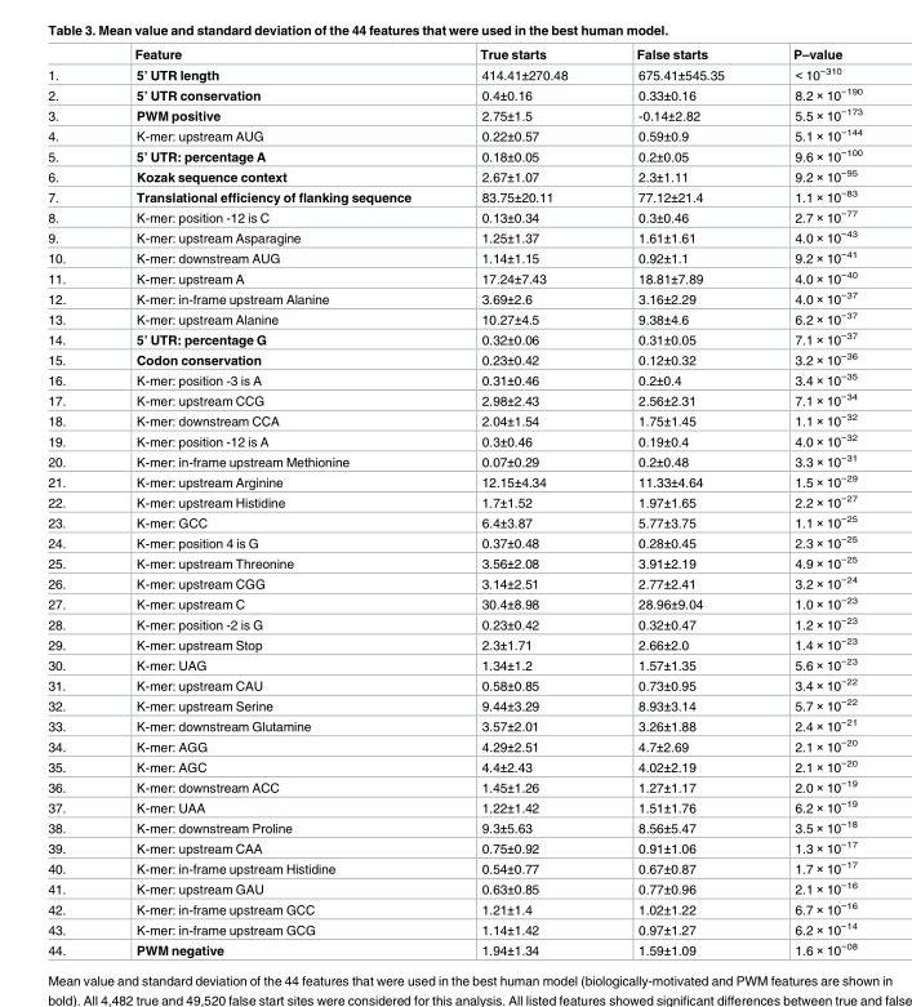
<table><thead><tr><td></td><td>Feature</td><td>True starts</td><td>False starts</td><td>P–value</td></tr></thead><tbody><tr><td>1.</td><td>5’ UTR length</td><td>414.41±270.48</td><td>675.41±545.35</td><td>&lt; 10<sup>−310</sup></td></tr><tr><td>2.</td><td>5’ UTR conservation</td><td>0.4±0.16</td><td>0.33±0.16</td><td>8.2 × 10<sup>−190</sup></td></tr><tr><td>3.</td><td>PWM positive</td><td>2.75±1.5</td><td>-0.14±2.82</td><td>5.5 × 10<sup>−173</sup></td></tr><tr><td>4.</td><td>K-mer: upstream AUG</td><td>0.22±0.57</td><td>0.59±0.9</td><td>5.1 × 10<sup>−144</sup></td></tr><tr><td>5.</td><td>5’ UTR: percentage A</td><td>0.18±0.05</td><td>0.2±0.05</td><td>9.6 × 10<sup>−100</sup></td></tr><tr><td>6.</td><td>Kozak sequence context</td><td>2.67±1.07</td><td>2.3±1.11</td><td>9.2 × 10<sup>−95</sup></td></tr><tr><td>7.</td><td>Translational efficiency of flanking sequence</td><td>83.75±20.11</td><td>77.12±21.4</td><td>1.1 × 10<sup>−83</sup></td></tr><tr><td>8.</td><td>K-mer: position -12 is C</td><td>0.13±0.34</td><td>0.3±0.46</td><td>2.7 × 10<sup>−77</sup></td></tr><tr><td>9.</td><td>K-mer: upstream Asparagine</td><td>1.25±1.37</td><td>1.61±1.61</td><td>4.0 × 10<sup>−43</sup></td></tr><tr><td>10.</td><td>K-mer: downstream AUG</td><td>1.14±1.15</td><td>0.92±1.1</td><td>9.2 × 10<sup>−41</sup></td></tr><tr><td>11.</td><td>K-mer: upstream A</td><td>17.24±7.43</td><td>18.81±7.89</td><td>4.0 × 10<sup>−40</sup></td></tr><tr><td>12.</td><td>K-mer: in-frame upstream Alanine</td><td>3.69±2.6</td><td>3.16±2.29</td><td>4.0 × 10<sup>−37</sup></td></tr><tr><td>13.</td><td>K-mer: upstream Alanine</td><td>10.27±4.5</td><td>9.38±4.6</td><td>6.2 × 10<sup>−37</sup></td></tr><tr><td>14.</td><td>5’ UTR: percentage G</td><td>0.32±0.06</td><td>0.31±0.05</td><td>7.1 × 10<sup>−37</sup></td></tr><tr><td>15.</td><td>Codon conservation</td><td>0.23±0.42</td><td>0.12±0.32</td><td>3.2 × 10<sup>−36</sup></td></tr><tr><td>16.</td><td>K-mer: position -3 is A</td><td>0.31±0.46</td><td>0.2±0.4</td><td>3.4 × 10<sup>−35</sup></td></tr><tr><td>17.</td><td>K-mer: upstream CCG</td><td>2.98±2.43</td><td>2.56±2.31</td><td>7.1 × 10<sup>−34</sup></td></tr><tr><td>18.</td><td>K-mer: downstream CCA</td><td>2.04±1.54</td><td>1.75±1.45</td><td>1.1 × 10<sup>−32</sup></td></tr><tr><td>19.</td><td>K-mer: position -12 is A</td><td>0.3±0.46</td><td>0.19±0.4</td><td>4.0 × 10<sup>−32</sup></td></tr><tr><td>20.</td><td>K-mer: in-frame upstream Methionine</td><td>0.07±0.29</td><td>0.2±0.48</td><td>3.3 × 10<sup>−31</sup></td></tr><tr><td>21.</td><td>K-mer: upstream Arginine</td><td>12.15±4.34</td><td>11.33±4.64</td><td>1.5 × 10<sup>−29</sup></td></tr><tr><td>22.</td><td>K-mer: upstream Histidine</td><td>1.7±1.52</td><td>1.97±1.65</td><td>2.2 × 10<sup>−27</sup></td></tr><tr><td>23.</td><td>K-mer: GCC</td><td>6.4±3.87</td><td>5.77±3.75</td><td>1.1 × 10<sup>−25</sup></td></tr><tr><td>24.</td><td>K-mer: position 4 is G</td><td>0.37±0.48</td><td>0.28±0.45</td><td>2.3 × 10<sup>−25</sup></td></tr><tr><td>25.</td><td>K-mer: upstream Threonine</td><td>3.56±2.08</td><td>3.91±2.19</td><td>4.9 × 10<sup>−25</sup></td></tr><tr><td>26.</td><td>K-mer: upstream CGG</td><td>3.14±2.51</td><td>2.77±2.41</td><td>3.2 × 10<sup>−24</sup></td></tr><tr><td>27.</td><td>K-mer: upstream C</td><td>30.4±8.98</td><td>28.96±9.04</td><td>1.0 × 10<sup>−23</sup></td></tr><tr><td>28.</td><td>K-mer: position -2 is G</td><td>0.23±0.42</td><td>0.32±0.47</td><td>1.2 × 10<sup>−23</sup></td></tr><tr><td>29.</td><td>K-mer: upstream Stop</td><td>2.3±1.71</td><td>2.66±2.0</td><td>1.4 × 10<sup>−23</sup></td></tr><tr><td>30.</td><td>K-mer: UAG</td><td>1.34±1.2</td><td>1.57±1.35</td><td>5.6 × 10<sup>−23</sup></td></tr><tr><td>31.</td><td>K-mer: upstream CAU</td><td>0.58±0.85</td><td>0.73±0.95</td><td>3.4 × 10<sup>−22</sup></td></tr><tr><td>32.</td><td>K-mer: upstream Serine</td><td>9.44±3.29</td><td>8.93±3.14</td><td>5.7 × 10<sup>−22</sup></td></tr><tr><td>33.</td><td>K-mer: downstream Glutamine</td><td>3.57±2.01</td><td>3.26±1.88</td><td>2.4 × 10<sup>−21</sup></td></tr><tr><td>34.</td><td>K-mer: AGG</td><td>4.29±2.51</td><td>4.7±2.69</td><td>2.1 × 10<sup>−20</sup></td></tr><tr><td>35.</td><td>K-mer: AGC</td><td>4.4±2.43</td><td>4.02±2.19</td><td>2.1 × 10<sup>−20</sup></td></tr><tr><td>36.</td><td>K-mer: downstream ACC</td><td>1.45±1.26</td><td>1.27±1.17</td><td>2.0 × 10<sup>−19</sup></td></tr><tr><td>37.</td><td>K-mer: UAA</td><td>1.22±1.42</td><td>1.51±1.76</td><td>6.2 × 10<sup>−19</sup></td></tr><tr><td>38.</td><td>K-mer: downstream Proline</td><td>9.3±5.63</td><td>8.56±5.47</td><td>3.5 × 10<sup>−18</sup></td></tr><tr><td>39.</td><td>K-mer: upstream CAA</td><td>0.75±0.92</td><td>0.91±1.06</td><td>1.3 × 10<sup>−17</sup></td></tr><tr><td>40.</td><td>K-mer: in-frame upstream Histidine</td><td>0.54±0.77</td><td>0.67±0.87</td><td>1.7 × 10<sup>−17</sup></td></tr><tr><td>41.</td><td>K-mer: upstream GAU</td><td>0.63±0.85</td><td>0.77±0.96</td><td>2.1 × 10<sup>−16</sup></td></tr><tr><td>42.</td><td>K-mer: in-frame upstream GCC</td><td>1.21±1.4</td><td>1.02±1.22</td><td>6.7 × 10<sup>−16</sup></td></tr><tr><td>43.</td><td>K-mer: in-frame upstream GCG</td><td>1.14±1.42</td><td>0.97±1.27</td><td>6.2 × 10<sup>−14</sup></td></tr><tr><td>44.</td><td>PWM negative</td><td>1.94±1.34</td><td>1.59±1.09</td><td>1.6 × 10<sup>−08</sup></td></tr></tbody></table>